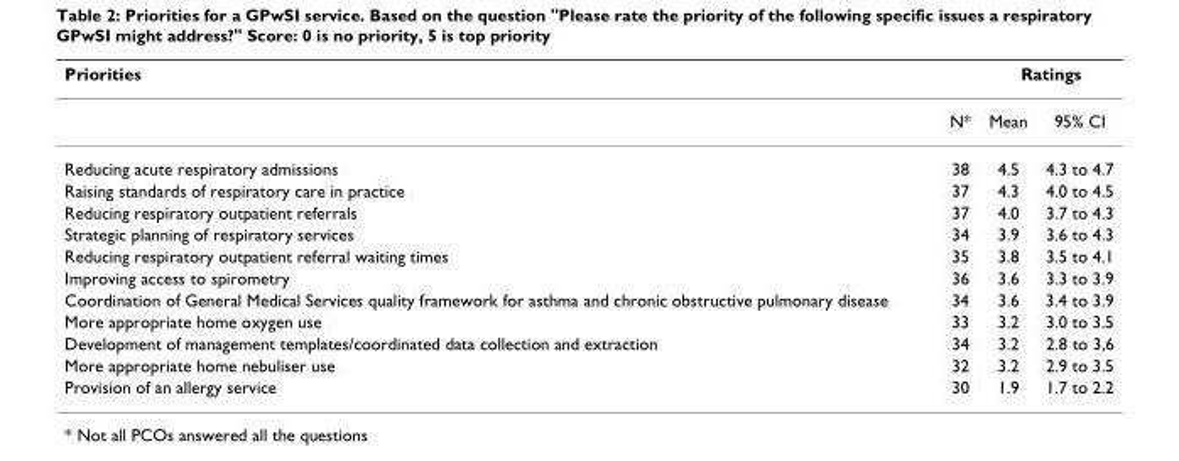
<table><thead><tr><td rowspan="2">Priorities</td><td rowspan="2">N*</td><td colspan="2">Ratings</td></tr><tr><td>Mean</td><td>95% CI</td></tr></thead><tbody><tr><td>Reducing acute respiratory admissions</td><td>38</td><td>4.5</td><td>4.3 to 4.7</td></tr><tr><td>Raising standards of respiratory care in practice</td><td>37</td><td>4.3</td><td>4.0 to 4.5</td></tr><tr><td>Reducing respiratory outpatient referrals</td><td>37</td><td>4.0</td><td>3.7 to 4.3</td></tr><tr><td>Strategic planning of respiratory services</td><td>34</td><td>3.9</td><td>3.6 to 4.3</td></tr><tr><td>Reducing respiratory outpatient referral waiting times</td><td>35</td><td>3.8</td><td>3.5 to 4.1</td></tr><tr><td>Improving access to spirometry</td><td>36</td><td>3.6</td><td>3.3 to 3.9</td></tr><tr><td>Coordination of General Medical Services quality framework for asthma and chronic obstructive pulmonary disease</td><td>34</td><td>3.6</td><td>3.4 to 3.9</td></tr><tr><td>More appropriate home oxygen use</td><td>33</td><td>3.2</td><td>3.0 to 3.5</td></tr><tr><td>Development of management templates/coordinated data collection and extraction</td><td>34</td><td>3.2</td><td>2.8 to 3,6</td></tr><tr><td>More appropriate home nebuliser use</td><td>32</td><td>3.2</td><td>2.9 to 3.5</td></tr><tr><td>Provision of an allergy service</td><td>30</td><td>1.9</td><td>1.7 to 2.2</td></tr></tbody></table>